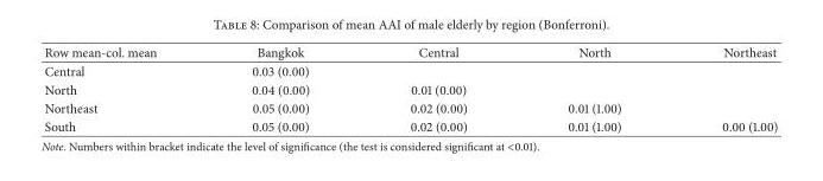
<table><thead><tr><td>Row mean-col. mean</td><td>Bangkok</td><td>Central</td><td>North</td><td>Northeast</td></tr></thead><tbody><tr><td>Central</td><td>0.03 (0.00)</td><td></td><td></td><td></td></tr><tr><td>North</td><td>0.04 (0.00)</td><td>0.01 (0.00)</td><td></td><td></td></tr><tr><td>Northeast</td><td>0.05 (0.00)</td><td>0.02 (0.00)</td><td>0.01 (1.00)</td><td></td></tr><tr><td>South</td><td>0.05 (0.00)</td><td>0.02 (0.00)</td><td>0.01 (1.00)</td><td>0.00 (1.00)</td></tr></tbody></table>